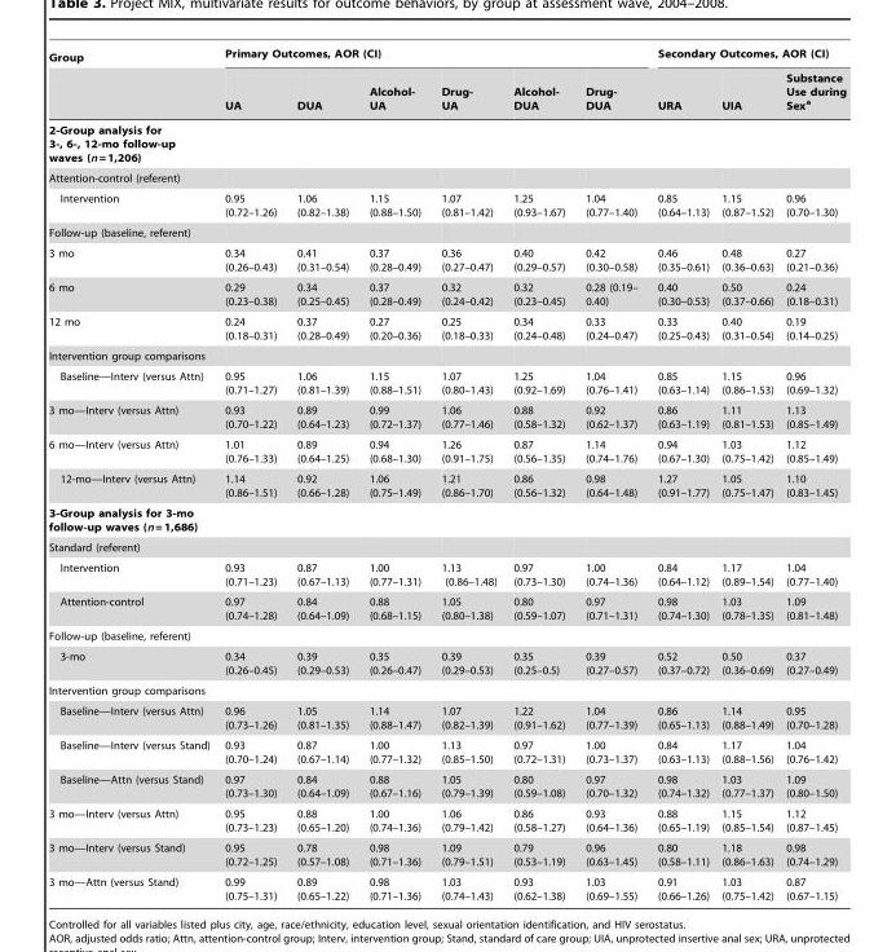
<table><thead><tr><td rowspan="2">Group</td><td colspan="6">Primary Outcomes, AOR (CI)</td><td colspan="3">Secondary Outcomes, AOR (CI)</td></tr><tr><td>UA</td><td>DUA</td><td>Alcohol- UA</td><td>Drug- UA</td><td>Alcohol- DUA</td><td>Drug- DUA</td><td>URA</td><td>UIA</td><td>Substance Use during Sex<sup>a</sup></td></tr></thead><tbody><tr><td colspan="10">2-Group analysis for 3-, 6-, 12-mo follow-up waves (n = 1,206)</td></tr><tr><td colspan="10">Attention-control (referent)</td></tr><tr><td>Intervention</td><td>0.95 (0.72–1.26)</td><td>1.06 (0.82–1.38)</td><td>1.15 (0.88–1.50)</td><td>1.07 (0.81–1.42)</td><td>1.25 (0.93–1.67)</td><td>1.04 (0.77–1.40)</td><td>0.85 (0.64–1.13)</td><td>1.15 (0.87–1.52)</td><td>0.96 (0.70–1.30)</td></tr><tr><td colspan="10">Follow-up (baseline, referent)</td></tr><tr><td>3 mo</td><td>0.34 (0.26–0.43)</td><td>0.41 (0.31–0.54)</td><td>0.37 (0.28–0.49)</td><td>0.36 (0.27–0.47)</td><td>0.40 (0.29–0.57)</td><td>0.42 (0.30–0.58)</td><td>0.46 (0.35–0.61)</td><td>0.48 (0.36–0.63)</td><td>0.27 (0.21–0.36)</td></tr><tr><td>6 mo</td><td>0.29 (0.23–0.38)</td><td>0.34 (0.25–0.45)</td><td>0.37 (0.28–0.49)</td><td>0.32 (0.24–0.42)</td><td>0.32 (0.23–0.45)</td><td>0.28 (0.19– 0.40)</td><td>0.40 (0.30–0.53)</td><td>0.50 (0.37–0.66)</td><td>0.24 (0.18–0.31)</td></tr><tr><td>12 mo</td><td>0.24 (0.18–0.31)</td><td>0.37 (0.28–0.49)</td><td>0.27 (0.20–0.36)</td><td>0.25 (0.18–0.33)</td><td>0.34 (0.24–0.48)</td><td>0.33 (0.24–0.47)</td><td>0.33 (0.25–0.43)</td><td>0.40 (0.31–0.54)</td><td>0.19 (0.14–0.25)</td></tr><tr><td colspan="10">Intervention group comparisons</td></tr><tr><td>Baseline—Interv (versus Attn)</td><td>0.95 (0.71–1.27)</td><td>1.06 (0.81–1.39)</td><td>1.15 (0.88–1.51)</td><td>1.07 (0.80–1.43)</td><td>1.25 (0.92–1.69)</td><td>1.04 (0.76–1.41)</td><td>0.85 (0.63–1.14)</td><td>1.15 (0.86–1.53)</td><td>0.96 (0.69–1.32)</td></tr><tr><td>3 mo—Interv (versus Attn)</td><td>0.93 (0.70–1.22)</td><td>0.89 (0.64–1.23)</td><td>0.99 (0.72–1.37)</td><td>1.06 (0.77–1.46)</td><td>0.88 (0.58–1.32)</td><td>0.92 (0.62–1.37)</td><td>0.86 (0.63–1.19)</td><td>1.11 (0.81–1.53)</td><td>1.13 (0.85–1.49)</td></tr><tr><td>6 mo—Interv (versus Attn)</td><td>1.01 (0.76–1.33)</td><td>0.89 (0.64–1.25)</td><td>0.94 (0.68–1.30)</td><td>1.26 (0.91–1.75)</td><td>0.87 (0.56–1.35)</td><td>1.14 (0.74–1.76)</td><td>0.94 (0.67–1.30)</td><td>1.03 (0.75–1.42)</td><td>1.12 (0.85–1.49)</td></tr><tr><td>12-mo—Interv (versus Attn)</td><td>1.14 (0.86–1.51)</td><td>0.92 (0.66–1.28)</td><td>1.06 (0.75–1.49)</td><td>1.21 (0.86–1.70)</td><td>0.86 (0.56–1.32)</td><td>0.98 (0.64–1.48)</td><td>1.27 (0.91–1.77)</td><td>1.05 (0.75–1.47)</td><td>1.10 (0.83–1.45)</td></tr><tr><td colspan="10">3-Group analysis for 3-mo follow-up waves (n = 1,686)</td></tr><tr><td colspan="10">Standard (referent)</td></tr><tr><td>Intervention</td><td>0.93 (0.71–1.23)</td><td>0.87 (0.67–1.13)</td><td>1.00 (0.77–1.31)</td><td>1.13 (0.86–1.48)</td><td>0.97 (0.73–1.30)</td><td>1.00 (0.74–1.36)</td><td>0.84 (0.64–1.12)</td><td>1.17 (0.89–1.54)</td><td>1.04 (0.77–1.40)</td></tr><tr><td>Attention-control</td><td>0.97 (0.74–1.28)</td><td>0.84 (0.64–1.09)</td><td>0.88 (0.68–1.15)</td><td>1.05 (0.80–1.38)</td><td>0.80 (0.59–1.07)</td><td>0.97 (0.71–1.31)</td><td>0.98 (0.74–1.30)</td><td>1.03 (0.78–1.35)</td><td>1.09 (0.81–1.48)</td></tr><tr><td colspan="10">Follow-up (baseline, referent)</td></tr><tr><td>3-mo</td><td>0.34 (0.26–0.45)</td><td>0.39 (0.29–0.53)</td><td>0.35 (0.26–0.47)</td><td>0.39 (0.29–0.53)</td><td>0.35 (0.25–0.5)</td><td>0.39 (0.27–0.57)</td><td>0.52 (0.37–0.72)</td><td>0.50 (0.36–0.69)</td><td>0.37 (0.27–0.49)</td></tr><tr><td colspan="10">Intervention group comparisons</td></tr><tr><td>Baseline—Interv (versus Attn)</td><td>0.96 (0.73–1.26)</td><td>1.05 (0.81–1.35)</td><td>1.14 (0.88–1.47)</td><td>1.07 (0.82–1.39)</td><td>1.22 (0.91–1.62)</td><td>1.04 (0.77–1.39)</td><td>0.86 (0.65–1.13)</td><td>1.14 (0.88–1.49)</td><td>0.95 (0.70–1.28)</td></tr><tr><td>Baseline—Interv (versus Stand)</td><td>0.93 (0.70–1.24)</td><td>0.87 (0.67–1.14)</td><td>1.00 (0.77–1.32)</td><td>1.13 (0.85–1.50)</td><td>0.97 (0.72–1.31)</td><td>1.00 (0.73–1.37)</td><td>0.84 (0.63–1.13)</td><td>1.17 (0.88–1.56)</td><td>1.04 (0.76–1.42)</td></tr><tr><td>Baseline—Attn (versus Stand)</td><td>0.97 (0.73–1.30)</td><td>0.84 (0.64–1.09)</td><td>0.88 (0.67–1.16)</td><td>1.05 (0.79–1.39)</td><td>0.80 (0.59–1.08)</td><td>0.97 (0.70–1.32)</td><td>0.98 (0.74–1.32)</td><td>1.03 (0.77–1.37)</td><td>1.09 (0.80–1.50)</td></tr><tr><td>3 mo—Interv (versus Attn)</td><td>0.95 (0.73–1.23)</td><td>0.88 (0.65–1.20)</td><td>1.00 (0.74–1.36)</td><td>1.06 (0.79–1.42)</td><td>0.86 (0.58–1.27)</td><td>0.93 (0.64–1.36)</td><td>0.88 (0.65–1.19)</td><td>1.15 (0.85–1.54)</td><td>1.12 (0.87–1.45)</td></tr><tr><td>3 mo—Interv (versus Stand)</td><td>0.95 (0.72–1.25)</td><td>0.78 (0.57–1.08)</td><td>0.98 (0.71–1.36)</td><td>1.09 (0.79–1.51)</td><td>0.79 (0.53–1.19)</td><td>0.96 (0.63–1.45)</td><td>0.80 (0.58–1.11)</td><td>1.18 (0.86–1.63)</td><td>0.98 (0.74–1.29)</td></tr><tr><td>3 mo—Attn (versus Stand)</td><td>0.99 (0.75–1.31)</td><td>0.89 (0.65–1.22)</td><td>0.98 (0.71–1.36)</td><td>1.03 (0.74–1.43)</td><td>0.93 (0.62–1.38)</td><td>1.03 (0.69–1.55)</td><td>0.91 (0.66–1.26)</td><td>1.03 (0.75–1.42)</td><td>0.87 (0.67–1.15)</td></tr></tbody></table>